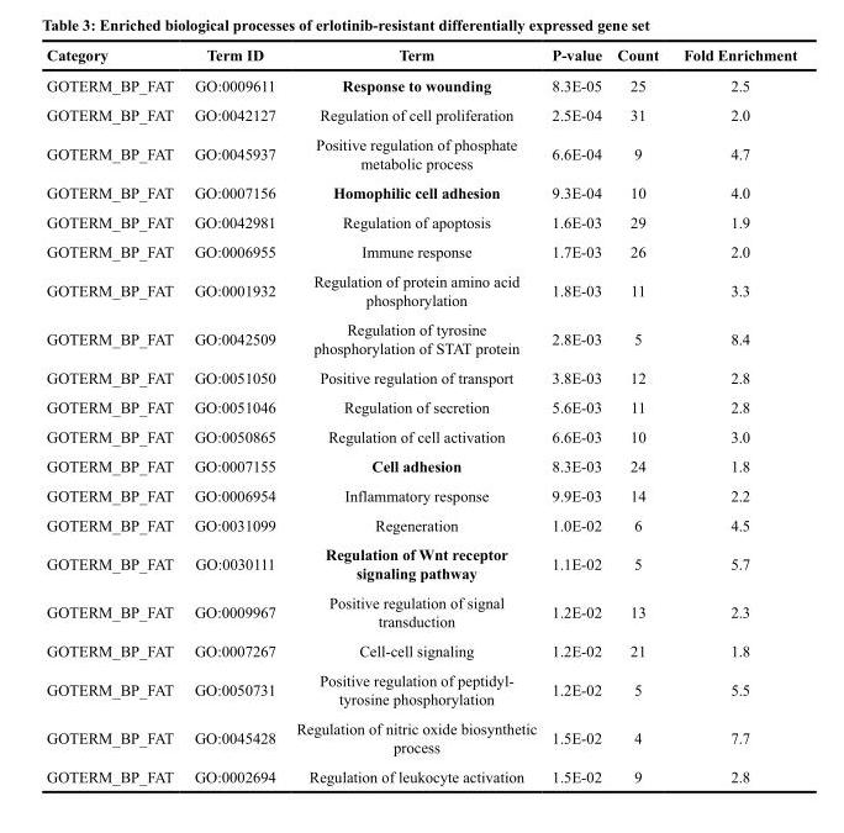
<table><thead><tr><td>Category</td><td>Term ID</td><td>Term</td><td>P-value</td><td>Count</td><td>Fold Enrichment</td></tr></thead><tbody><tr><td>GOTERM_BP_FAT</td><td>GO:0009611</td><td>Response to wounding</td><td>8.3E-05</td><td>25</td><td>2.5</td></tr><tr><td>GOTERM_BP_FAT</td><td>GO:0042127</td><td>Regulation of cell proliferation</td><td>2.5E-04</td><td>31</td><td>2.0</td></tr><tr><td>GOTERM_BP_FAT</td><td>GO:0045937</td><td>Positive regulation of phosphate metabolic process</td><td>6.6E-04</td><td>9</td><td>4.7</td></tr><tr><td>GOTERM_BP_FAT</td><td>GO:0007156</td><td>Homophilic cell adhesion</td><td>9.3E-04</td><td>10</td><td>4.0</td></tr><tr><td>GOTERM_BP_FAT</td><td>GO:0042981</td><td>Regulation of apoptosis</td><td>1.6E-03</td><td>29</td><td>1.9</td></tr><tr><td>GOTERM_BP_FAT</td><td>GO:0006955</td><td>Immune response</td><td>1.7E-03</td><td>26</td><td>2.0</td></tr><tr><td>GOTERM_BP_FAT</td><td>GO:0001932</td><td>Regulation of protein amino acid phosphorylation</td><td>1.8E-03</td><td>11</td><td>3.3</td></tr><tr><td>GOTERM_BP_FAT</td><td>GO:0042509</td><td>Regulation of tyrosine phosphorylation of STAT protein</td><td>2.8E-03</td><td>5</td><td>8.4</td></tr><tr><td>GOTERM_BP_FAT</td><td>GO:0051050</td><td>Positive regulation of transport</td><td>3.8E-03</td><td>12</td><td>2.8</td></tr><tr><td>GOTERM_BP_FAT</td><td>GO:0051046</td><td>Regulation of secretion</td><td>5.6E-03</td><td>11</td><td>2.8</td></tr><tr><td>GOTERM_BP_FAT</td><td>GO:0050865</td><td>Regulation of cell activation</td><td>6.6E-03</td><td>10</td><td>3.0</td></tr><tr><td>GOTERM_BP_FAT</td><td>GO:0007155</td><td>Cell adhesion</td><td>8.3E-03</td><td>24</td><td>1.8</td></tr><tr><td>GOTERM_BP_FAT</td><td>GO:0006954</td><td>Inflammatory response</td><td>9.9E-03</td><td>14</td><td>2.2</td></tr><tr><td>GOTERM_BP_FAT</td><td>GO:0031099</td><td>Regeneration</td><td>1.0E-02</td><td>6</td><td>4.5</td></tr><tr><td>GOTERM_BP_FAT</td><td>GO:0030111</td><td>Regulation of Wnt receptor signaling pathway</td><td>1.1E-02</td><td>5</td><td>5.7</td></tr><tr><td>GOTERM_BP_FAT</td><td>GO:0009967</td><td>Positive regulation of signal transduction</td><td>1.2E-02</td><td>13</td><td>2.3</td></tr><tr><td>GOTERM_BP_FAT</td><td>GO:0007267</td><td>Cell-cell signaling</td><td>1.2E-02</td><td>21</td><td>1.8</td></tr><tr><td>GOTERM_BP_FAT</td><td>GO:0050731</td><td>Positive regulation of peptidyl- tyrosine phosphorylation</td><td>1.2E-02</td><td>5</td><td>5.5</td></tr><tr><td>GOTERM_BP_FAT</td><td>GO:0045428</td><td>Regulation of nitric oxide biosynthetic process</td><td>1.5E-02</td><td>4</td><td>7.7</td></tr><tr><td>GOTERM_BP_FAT</td><td>GO:0002694</td><td>Regulation of leukocyte activation</td><td>1.5E-02</td><td>9</td><td>2.8</td></tr></tbody></table>